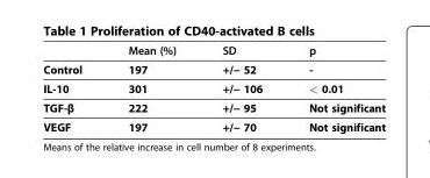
<table><thead><tr><td></td><td>Mean (%)</td><td>SD</td><td>p</td></tr></thead><tbody><tr><td>Control</td><td>197</td><td>+/− 52</td><td>-</td></tr><tr><td>IL-10</td><td>301</td><td>+/− 106</td><td>&lt; 0.01</td></tr><tr><td>TGF-β</td><td>222</td><td>+/− 95</td><td>Not significant</td></tr><tr><td>VEGF</td><td>197</td><td>+/− 70</td><td>Not significant</td></tr></tbody></table>